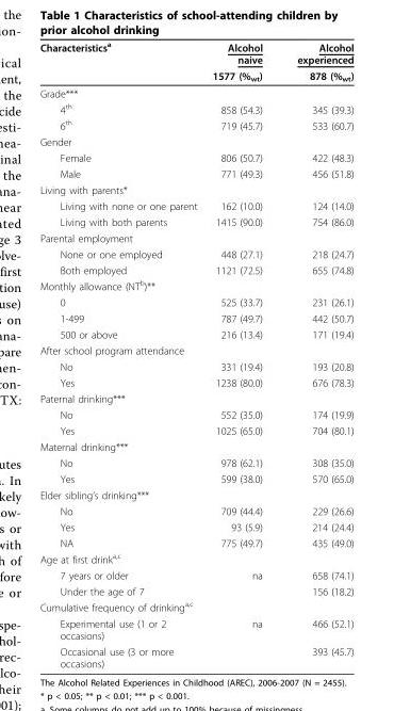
<table><thead><tr><td rowspan="2">Characteristics<sup>a</sup></td><td rowspan="2">Alcohol naive 1577 (%<sub>wt</sub>)</td><td rowspan="2">Alcohol experienced 878 (%<sub>wt</sub>)</td></tr><tr></tr></thead><tbody><tr><td colspan="3">Grade***</td></tr><tr><td>4<sup>th</sup></td><td>858 (54.3)</td><td>345 (39.3)</td></tr><tr><td>6<sup>th</sup></td><td>719 (45.7)</td><td>533 (60.7)</td></tr><tr><td colspan="3">Gender</td></tr><tr><td>Female</td><td>806 (50.7)</td><td>422 (48.3)</td></tr><tr><td>Male</td><td>771 (49.3)</td><td>456 (51.8)</td></tr><tr><td colspan="3">Living with parents*</td></tr><tr><td>Living with none or one parent</td><td>162 (10.0)</td><td>124 (14.0)</td></tr><tr><td>Living with both parents</td><td>1415 (90.0)</td><td>754 (86.0)</td></tr><tr><td colspan="3">Parental employment</td></tr><tr><td>None or one employed</td><td>448 (27.1)</td><td>218 (24.7)</td></tr><tr><td>Both employed</td><td>1121 (72.5)</td><td>655 (74.8)</td></tr><tr><td colspan="3">Monthly allowance (NT<sup>b</sup>)**</td></tr><tr><td>0</td><td>525 (33.7)</td><td>231 (26.1)</td></tr><tr><td>1-499</td><td>787 (49.7)</td><td>442 (50.7)</td></tr><tr><td>500 or above</td><td>216 (13.4)</td><td>171 (19.4)</td></tr><tr><td colspan="3">After school program attendance</td></tr><tr><td>No</td><td>331 (19.4)</td><td>193 (20.8)</td></tr><tr><td>Yes</td><td>1238 (80.0)</td><td>676 (78.3)</td></tr><tr><td colspan="3">Paternal drinking***</td></tr><tr><td>No</td><td>552 (35.0)</td><td>174 (19.9)</td></tr><tr><td>Yes</td><td>1025 (65.0)</td><td>704 (80.1)</td></tr><tr><td colspan="3">Maternal drinking***</td></tr><tr><td>No</td><td>978 (62.1)</td><td>308 (35.0)</td></tr><tr><td>Yes</td><td>599 (38.0)</td><td>570 (65.0)</td></tr><tr><td colspan="3">Elder sibling’s drinking***</td></tr><tr><td>No</td><td>709 (44.4)</td><td>229 (26.6)</td></tr><tr><td>Yes</td><td>93 (5.9)</td><td>214 (24.4)</td></tr><tr><td>NA</td><td>775 (49.7)</td><td>435 (49.0)</td></tr><tr><td colspan="3">Age at first drink<sup>a,c</sup></td></tr><tr><td>7 years or older</td><td>na</td><td>658 (74.1)</td></tr><tr><td>Under the age of 7</td><td></td><td>156 (18.2)</td></tr><tr><td colspan="3">Cumulative frequency of drinking<sup>a,c</sup></td></tr><tr><td>Experimental use (1 or 2 occasions)</td><td>na</td><td>466 (52.1)</td></tr><tr><td>Occasional use (3 or more occasions)</td><td></td><td>393 (45.7)</td></tr></tbody></table>